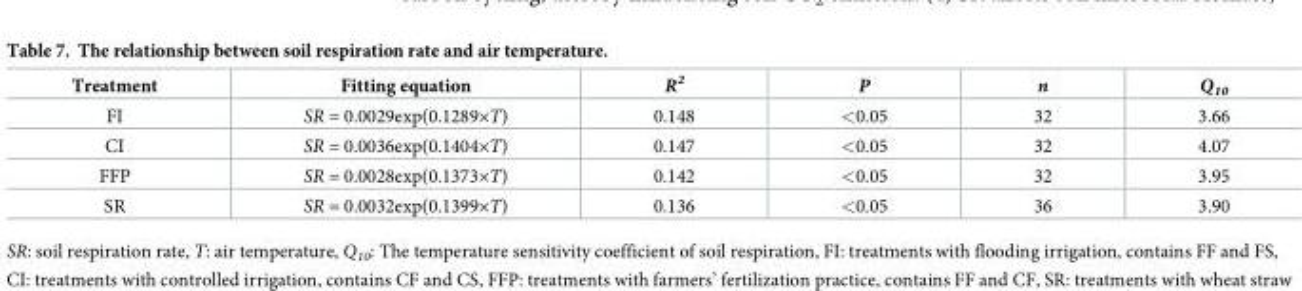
<table><thead><tr><td>Treatment</td><td>Fitting equation</td><td>R<sup>2</sup></td><td>P</td><td>n</td><td>Q<sub>10</sub></td></tr></thead><tbody><tr><td>FI</td><td>SR = 0.0029exp(0.1289×T)</td><td>0.148</td><td>&lt;0.05</td><td>32</td><td>3.66</td></tr><tr><td>CI</td><td>SR = 0.0036exp(0.1404×T)</td><td>0.147</td><td>&lt;0.05</td><td>32</td><td>4.07</td></tr><tr><td>FFP</td><td>SR = 0.0028exp(0.1373×T)</td><td>0.142</td><td>&lt;0.05</td><td>32</td><td>3.95</td></tr><tr><td>SR</td><td>SR = 0.0032exp(0.1399×T)</td><td>0.136</td><td>&lt;0.05</td><td>36</td><td>3.90</td></tr></tbody></table>